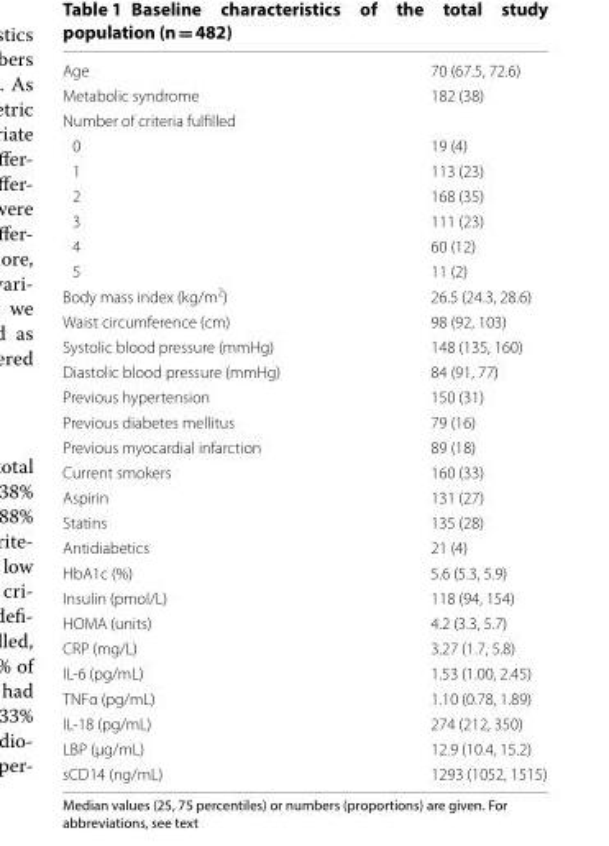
<table><tbody><tr><td>Age</td><td>70 (67.5, 72.6)</td></tr><tr><td>Metabolic syndrome</td><td>182 (38)</td></tr><tr><td colspan="2">Number of criteria fulfilled</td></tr><tr><td>0</td><td>19 (4)</td></tr><tr><td>1</td><td>113 (23)</td></tr><tr><td>2</td><td>168 (35)</td></tr><tr><td>3</td><td>111 (23)</td></tr><tr><td>4</td><td>60 (12)</td></tr><tr><td>5</td><td>11 (2)</td></tr><tr><td>Body mass index (kg/m<sup>2</sup>)</td><td>26.5 (24.3, 28.6)</td></tr><tr><td>Waist circumference (cm)</td><td>98 (92, 103)</td></tr><tr><td>Systolic blood pressure (mmHg)</td><td>148 (135, 160)</td></tr><tr><td>Diastolic blood pressure (mmHg)</td><td>84 (91, 77)</td></tr><tr><td>Previous hypertension</td><td>150 (31)</td></tr><tr><td>Previous diabetes mellitus</td><td>79 (16)</td></tr><tr><td>Previous myocardial infarction</td><td>89 (18)</td></tr><tr><td>Current smokers</td><td>160 (33)</td></tr><tr><td>Aspirin</td><td>131 (27)</td></tr><tr><td>Statins</td><td>135 (28)</td></tr><tr><td>Antidiabetics</td><td>21 (4)</td></tr><tr><td>HbA1c (%)</td><td>5.6 (5.3, 5.9)</td></tr><tr><td>Insulin (pmol/L)</td><td>118 (94, 154)</td></tr><tr><td>HOMA (units)</td><td>4.2 (3.3, 5.7)</td></tr><tr><td>CRP (mg/L)</td><td>3.27 (1.7, 5.8)</td></tr><tr><td>IL-6 (pg/mL)</td><td>1.53 (1.00, 2.45)</td></tr><tr><td>TNFα (pg/mL)</td><td>1.10 (0.78, 1.89)</td></tr><tr><td>IL-18 (pg/mL)</td><td>274 (212, 350)</td></tr><tr><td>LBP (µg/mL)</td><td>12.9 (10.4, 15.2)</td></tr><tr><td>sCD14 (ng/mL)</td><td>1293 (1052, 1515)</td></tr></tbody></table>